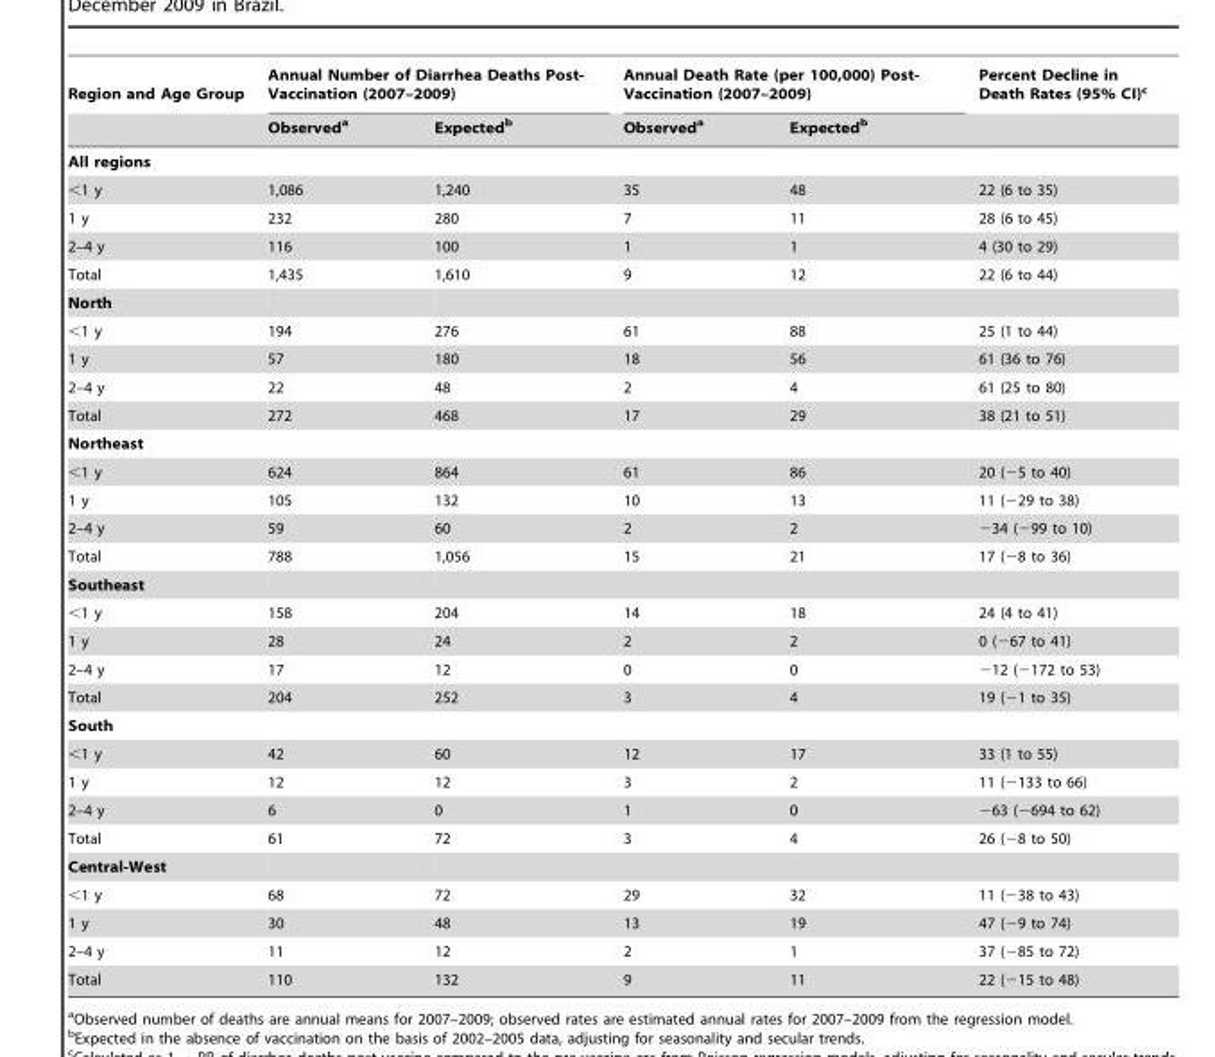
<table><thead><tr><td rowspan="2">Region and Age Group</td><td colspan="2">Annual Number of Diarrhea Deaths Post- Vaccination (2007–2009)</td><td colspan="2">Annual Death Rate (per 100,000) Post- Vaccination (2007–2009)</td><td rowspan="2">Percent Decline in Death Rates (95% CI)<sup>c</sup></td></tr><tr><td>Observed<sup>a</sup></td><td>Expected<sup>b</sup></td><td>Observed<sup>a</sup></td><td>Expected<sup>b</sup></td></tr></thead><tbody><tr><td colspan="6">All regions</td></tr><tr><td>&lt;1 y</td><td>1,086</td><td>1,240</td><td>35</td><td>48</td><td>22 (6 to 35)</td></tr><tr><td>1 y</td><td>232</td><td>280</td><td>7</td><td>11</td><td>28 (6 to 45)</td></tr><tr><td>2–4 y</td><td>116</td><td>100</td><td>1</td><td>1</td><td>4 (30 to 29)</td></tr><tr><td>Total</td><td>1,435</td><td>1,610</td><td>9</td><td>12</td><td>22 (6 to 44)</td></tr><tr><td colspan="6">North</td></tr><tr><td>&lt;1 y</td><td>194</td><td>276</td><td>61</td><td>88</td><td>25 (1 to 44)</td></tr><tr><td>1 y</td><td>57</td><td>180</td><td>18</td><td>56</td><td>61 (36 to 76)</td></tr><tr><td>2–4 y</td><td>22</td><td>48</td><td>2</td><td>4</td><td>61 (25 to 80)</td></tr><tr><td>Total</td><td>272</td><td>468</td><td>17</td><td>29</td><td>38 (21 to 51)</td></tr><tr><td colspan="6">Northeast</td></tr><tr><td>&lt;1 y</td><td>624</td><td>864</td><td>61</td><td>86</td><td>20 (−5 to 40)</td></tr><tr><td>1 y</td><td>105</td><td>132</td><td>10</td><td>13</td><td>11 (−29 to 38)</td></tr><tr><td>2–4 y</td><td>59</td><td>60</td><td>2</td><td>2</td><td>−34 (−99 to 10)</td></tr><tr><td>Total</td><td>788</td><td>1,056</td><td>15</td><td>21</td><td>17 (−8 to 36)</td></tr><tr><td colspan="6">Southeast</td></tr><tr><td>&lt;1 y</td><td>158</td><td>204</td><td>14</td><td>18</td><td>24 (4 to 41)</td></tr><tr><td>1 y</td><td>28</td><td>24</td><td>2</td><td>2</td><td>0 (−67 to 41)</td></tr><tr><td>2–4 y</td><td>17</td><td>12</td><td>0</td><td>0</td><td>−12 (−172 to 53)</td></tr><tr><td>Total</td><td>204</td><td>252</td><td>3</td><td>4</td><td>19 (−1 to 35)</td></tr><tr><td colspan="6">South</td></tr><tr><td>&lt;1 y</td><td>42</td><td>60</td><td>12</td><td>17</td><td>33 (1 to 55)</td></tr><tr><td>1 y</td><td>12</td><td>12</td><td>3</td><td>2</td><td>11 (−133 to 66)</td></tr><tr><td>2–4 y</td><td>6</td><td>0</td><td>1</td><td>0</td><td>−63 (−694 to 62)</td></tr><tr><td>Total</td><td>61</td><td>72</td><td>3</td><td>4</td><td>26 (−8 to 50)</td></tr><tr><td colspan="6">Central-West</td></tr><tr><td>&lt;1 y</td><td>68</td><td>72</td><td>29</td><td>32</td><td>11 (−38 to 43)</td></tr><tr><td>1 y</td><td>30</td><td>48</td><td>13</td><td>19</td><td>47 (−9 to 74)</td></tr><tr><td>2–4 y</td><td>11</td><td>12</td><td>2</td><td>1</td><td>37 (−85 to 72)</td></tr><tr><td>Total</td><td>110</td><td>132</td><td>9</td><td>11</td><td>22 (−15 to 48)</td></tr></tbody></table>